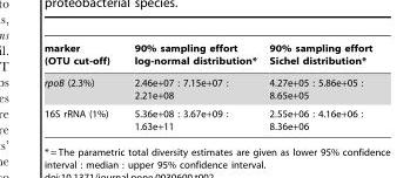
<table><thead><tr><td>marker (OTU cut-off)</td><td>90% sampling effort log-normal distribution*</td><td>90% sampling effort Sichel distribution*</td></tr></thead><tbody><tr><td>rpoB (2.3%)</td><td>2.46e+07 : 7.15e+07 : 2.21e+08</td><td>4.27e+05 : 5.86e+05 : 8.65e+05</td></tr><tr><td>16S rRNA (1%)</td><td>5.36e+08 : 3.67e+09 : 1.63e+11</td><td>2.55e+06 : 4.16e+06 : 8.36e+06</td></tr></tbody></table>